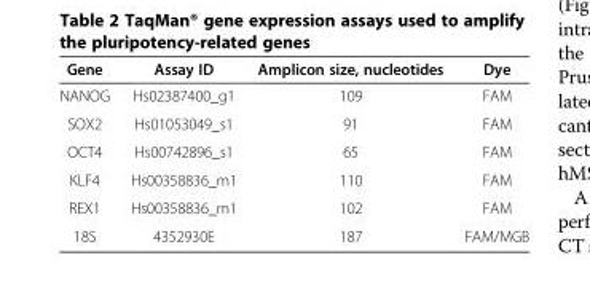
<table><thead><tr><td>Gene</td><td>Assay ID</td><td>Amplicon size, nucleotides</td><td>Dye</td></tr></thead><tbody><tr><td>NANOG</td><td>Hs02387400_g1</td><td>109</td><td>FAM</td></tr><tr><td>SOX2</td><td>Hs01053049_s1</td><td>91</td><td>FAM</td></tr><tr><td>OCT4</td><td>Hs00742896_s1</td><td>65</td><td>FAM</td></tr><tr><td>KLF4</td><td>Hs00358836_m1</td><td>110</td><td>FAM</td></tr><tr><td>REX1</td><td>Hs00358836_m1</td><td>102</td><td>FAM</td></tr><tr><td>18S</td><td>4352930E</td><td>187</td><td>FAM/MGB</td></tr></tbody></table>